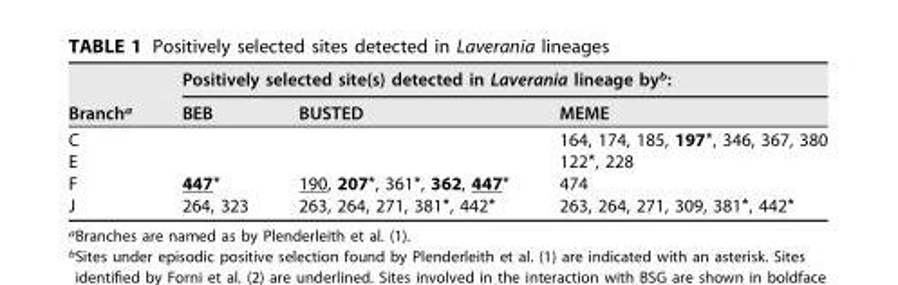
<table><thead><tr><td rowspan="2">Branch<sup>a</sup></td><td colspan="3">Positively selected site(s) detected in Laverania lineage by<sup>b</sup>:</td></tr><tr><td>BEB</td><td>BUSTED</td><td>MEME</td></tr></thead><tbody><tr><td>C</td><td></td><td></td><td>164, 174, 185, 197*, 346, 367, 380</td></tr><tr><td>E</td><td></td><td></td><td>122*, 228</td></tr><tr><td>F</td><td>447*</td><td>190, 207*, 361*, 362, 447*</td><td>474</td></tr><tr><td>J</td><td>264, 323</td><td>263, 264, 271, 381*, 442*</td><td>263, 264, 271, 309, 381*, 442*</td></tr></tbody></table>